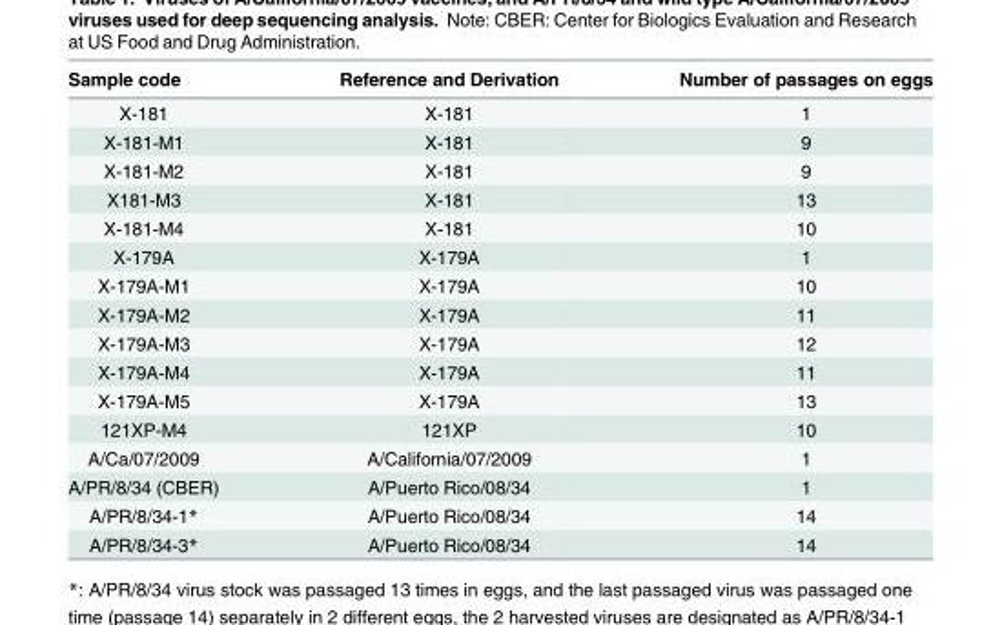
<table><thead><tr><td>Sample code</td><td>Reference and Derivation</td><td>Number of passages on eggs</td></tr></thead><tbody><tr><td>X-181</td><td>X-181</td><td>1</td></tr><tr><td>X-181-M1</td><td>X-181</td><td>9</td></tr><tr><td>X-181-M2</td><td>X-181</td><td>9</td></tr><tr><td>X181-M3</td><td>X-181</td><td>13</td></tr><tr><td>X-181-M4</td><td>X-181</td><td>10</td></tr><tr><td>X-179A</td><td>X-179A</td><td>1</td></tr><tr><td>X-179A-M1</td><td>X-179A</td><td>10</td></tr><tr><td>X-179A-M2</td><td>X-179A</td><td>11</td></tr><tr><td>X-179A-M3</td><td>X-179A</td><td>12</td></tr><tr><td>X-179A-M4</td><td>X-179A</td><td>11</td></tr><tr><td>X-179A-M5</td><td>X-179A</td><td>13</td></tr><tr><td>121XP-M4</td><td>121XP</td><td>10</td></tr><tr><td>A/Ca/07/2009</td><td>A/California/07/2009</td><td>1</td></tr><tr><td>A/PR/8/34 (CBER)</td><td>A/Puerto Rico/08/34</td><td>1</td></tr><tr><td>A/PR/8/34-1*</td><td>A/Puerto Rico/08/34</td><td>14</td></tr><tr><td>A/PR/8/34-3*</td><td>A/Puerto Rico/08/34</td><td>14</td></tr></tbody></table>